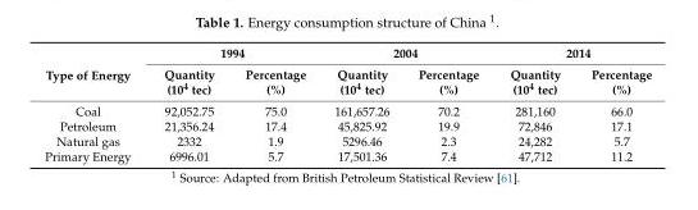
<table><thead><tr><td rowspan="2">Type of Energy</td><td colspan="2">1994</td><td colspan="2">2004</td><td colspan="2">2014</td></tr><tr><td>Quantity (10<sup>4</sup> tec)</td><td>Percentage (%)</td><td>Quantity (10<sup>4</sup> tec)</td><td>Percentage (%)</td><td>Quantity (10<sup>4</sup> tec)</td><td>Percentage (%)</td></tr></thead><tbody><tr><td>Coal</td><td>92,052.75</td><td>75.0</td><td>161,657.26</td><td>70.2</td><td>281,160</td><td>66.0</td></tr><tr><td>Petroleum</td><td>21,356.24</td><td>17.4</td><td>45,825.92</td><td>19.9</td><td>72,846</td><td>17.1</td></tr><tr><td>Natural gas</td><td>2332</td><td>1.9</td><td>5296.46</td><td>2.3</td><td>24,282</td><td>5.7</td></tr><tr><td>Primary Energy</td><td>6996.01</td><td>5.7</td><td>17,501.36</td><td>7.4</td><td>47,712</td><td>11.2</td></tr></tbody></table>